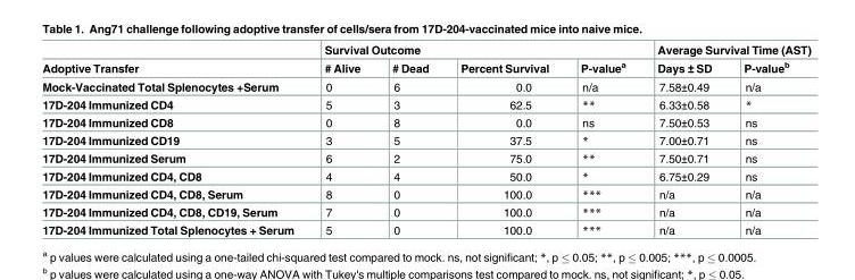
<table><thead><tr><td rowspan="2">Adoptive Transfer</td><td colspan="4">Survival Outcome</td><td colspan="2">Average Survival Time (AST)</td></tr><tr><td># Alive</td><td># Dead</td><td>Percent Survival</td><td>P-value<sup>a</sup></td><td>Days ± SD</td><td>P-value<sup>b</sup></td></tr></thead><tbody><tr><td>Mock-Vaccinated Total Splenocytes +Serum</td><td>0</td><td>6</td><td>0.0</td><td>n/a</td><td>7.58±0.49</td><td>n/a</td></tr><tr><td>17D-204 Immunized CD4</td><td>5</td><td>3</td><td>62.5</td><td>**</td><td>6.33±0.58</td><td>*</td></tr><tr><td>17D-204 Immunized CD8</td><td>0</td><td>8</td><td>0.0</td><td>ns</td><td>7.50±0.53</td><td>ns</td></tr><tr><td>17D-204 Immunized CD19</td><td>3</td><td>5</td><td>37.5</td><td>*</td><td>7.00±0.71</td><td>ns</td></tr><tr><td>17D-204 Immunized Serum</td><td>6</td><td>2</td><td>75.0</td><td>**</td><td>7.50±0.71</td><td>ns</td></tr><tr><td>17D-204 Immunized CD4, CD8</td><td>4</td><td>4</td><td>50.0</td><td>*</td><td>6.75±0.29</td><td>ns</td></tr><tr><td>17D-204 Immunized CD4, CD8, Serum</td><td>8</td><td>0</td><td>100.0</td><td>***</td><td>n/a</td><td>n/a</td></tr><tr><td>17D-204 Immunized CD4, CD8, CD19, Serum</td><td>7</td><td>0</td><td>100.0</td><td>***</td><td>n/a</td><td>n/a</td></tr><tr><td>17D-204 Immunized Total Splenocytes + Serum</td><td>5</td><td>0</td><td>100.0</td><td>***</td><td>n/a</td><td>n/a</td></tr></tbody></table>